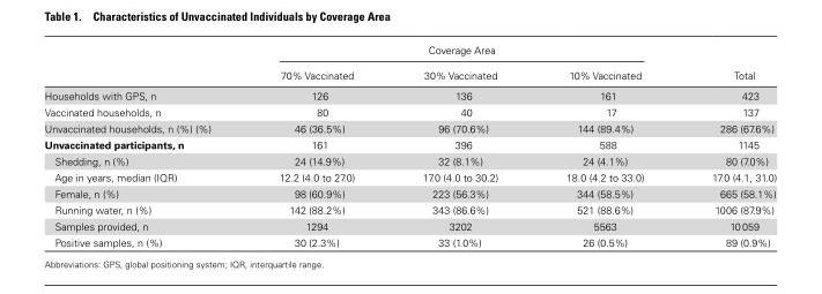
<table><thead><tr><td rowspan="2"></td><td colspan="3">Coverage Area</td><td rowspan="2">Total</td></tr><tr><td>70% Vaccinated</td><td>30% Vaccinated</td><td>10% Vaccinated</td></tr></thead><tbody><tr><td>Households with GPS, n</td><td>126</td><td>136</td><td>161</td><td>423</td></tr><tr><td>Vaccinated households, n</td><td>80</td><td>40</td><td>17</td><td>137</td></tr><tr><td>Unvaccinated households, n (%) (%)</td><td>46 (36.5%)</td><td>96 (70.6%)</td><td>144 (89.4%)</td><td>286 (67.6%)</td></tr><tr><td>Unvaccinated participants, n</td><td>161</td><td>396</td><td>588</td><td>1145</td></tr><tr><td>Shedding, n (%)</td><td>24 (14.9%)</td><td>32 (8.1%)</td><td>24 (4.1%)</td><td>80 (7.0%)</td></tr><tr><td>Age in years, median (IQR)</td><td>12.2 (4.0 to 27.0)</td><td>17.0 (4.0 to 30.2)</td><td>18.0 (4.2 to 33.0)</td><td>17.0 (4.1, 31.0)</td></tr><tr><td>Female, n (%)</td><td>98 (60.9%)</td><td>223 (56.3%)</td><td>344 (58.5%)</td><td>665 (58.1%)</td></tr><tr><td>Running water, n (%)</td><td>142 (88.2%)</td><td>343 (86.6%)</td><td>521 (88.6%)</td><td>1006 (87.9%)</td></tr><tr><td>Samples provided, n</td><td>1294</td><td>3202</td><td>5563</td><td>10 059</td></tr><tr><td>Positive samples, n (%)</td><td>30 (2.3%)</td><td>33 (1.0%)</td><td>26 (0.5%)</td><td>89 (0.9%)</td></tr></tbody></table>